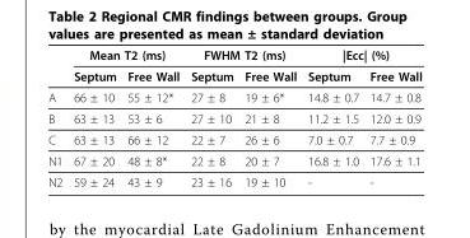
<table><thead><tr><td rowspan="2"></td><td colspan="2">Mean T2 (ms)</td><td colspan="2">FWHM T2 (ms)</td><td colspan="2">|Ecc| (%)</td></tr><tr><td>Septum</td><td>Free Wall</td><td>Septum</td><td>Free Wall</td><td>Septum</td><td>Free Wall</td></tr></thead><tbody><tr><td>A</td><td>66 ± 10</td><td>55 ± 12*</td><td>27 ± 8</td><td>19 ± 6*</td><td>14.8 ± 0.7</td><td>14.7 ± 0.8</td></tr><tr><td>B</td><td>63 ± 13</td><td>53 ± 6</td><td>27 ± 10</td><td>21 ± 8</td><td>11.2 ± 1.5</td><td>12.0 ± 0.9</td></tr><tr><td>C</td><td>63 ± 13</td><td>66 ± 12</td><td>22 ± 7</td><td>26 ± 6</td><td>7.0 ± 0.7</td><td>7.7 ± 0.9</td></tr><tr><td>N1</td><td>67 ± 20</td><td>48 ± 8*</td><td>22 ± 8</td><td>20 ± 7</td><td>16.8 ± 1.0</td><td>17.6 ± 1.1</td></tr><tr><td>N2</td><td>59 ± 24</td><td>43 ± 9</td><td>23 ± 16</td><td>19 ± 10</td><td>-</td><td>-</td></tr></tbody></table>